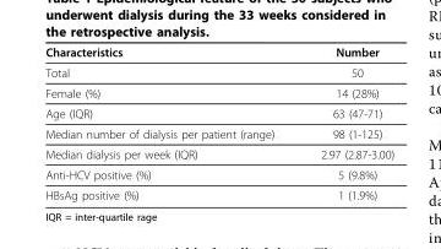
<table><thead><tr><td>Characteristics</td><td>Number</td></tr></thead><tbody><tr><td>Total</td><td>50</td></tr><tr><td>Female (%)</td><td>14 (28%)</td></tr><tr><td>Age (IQR)</td><td>63 (47-71)</td></tr><tr><td>Median number of dialysis per patient (range)</td><td>98 (1-125)</td></tr><tr><td>Median dialysis per week (IQR)</td><td>2.97 (2.87-3.00)</td></tr><tr><td>Anti-HCV positive (%)</td><td>5 (9.8%)</td></tr><tr><td>HBsAg positive (%)</td><td>1 (1.9%)</td></tr></tbody></table>